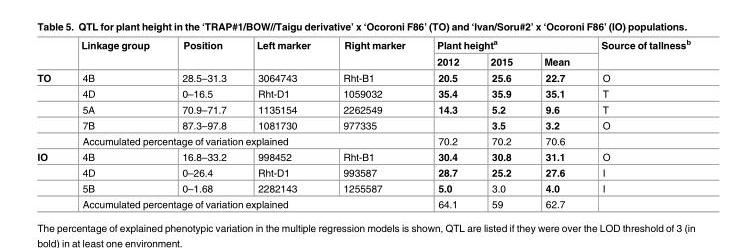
<table><thead><tr><td rowspan="2"></td><td rowspan="2">Linkage group</td><td rowspan="2">Position</td><td rowspan="2">Left marker</td><td rowspan="2">Right marker</td><td colspan="3">Plant height<sup>a</sup></td><td rowspan="2">Source of tallness<sup>b</sup></td></tr><tr><td>2012</td><td>2015</td><td>Mean</td></tr></thead><tbody><tr><td rowspan="5">TO</td><td>4B</td><td>28.5–31.3</td><td>3064743</td><td>Rht-B1</td><td>20.5</td><td>25.6</td><td>22.7</td><td>O</td></tr><tr><td>4D</td><td>0–16.5</td><td>Rht-D1</td><td>1059032</td><td>35.4</td><td>35.9</td><td>35.1</td><td>T</td></tr><tr><td>5A</td><td>70.9–71.7</td><td>1135154</td><td>2262549</td><td>14.3</td><td>5.2</td><td>9.6</td><td>T</td></tr><tr><td>7B</td><td>87.3–97.8</td><td>1081730</td><td>977335</td><td></td><td>3.5</td><td>3.2</td><td>O</td></tr><tr><td colspan="4">Accumulated percentage of variation explained</td><td>70.2</td><td>70.2</td><td>70.6</td><td></td></tr><tr><td rowspan="4">IO</td><td>4B</td><td>16.8–33.2</td><td>998452</td><td>Rht-B1</td><td>30.4</td><td>30.8</td><td>31.1</td><td>O</td></tr><tr><td>4D</td><td>0–26.4</td><td>Rht-D1</td><td>993587</td><td>28.7</td><td>25.2</td><td>27.6</td><td>I</td></tr><tr><td>5B</td><td>0–1.68</td><td>2282143</td><td>1255587</td><td>5.0</td><td>3.0</td><td>4.0</td><td>I</td></tr><tr><td colspan="4">Accumulated percentage of variation explained</td><td>64.1</td><td>59</td><td>62.7</td><td></td></tr></tbody></table>